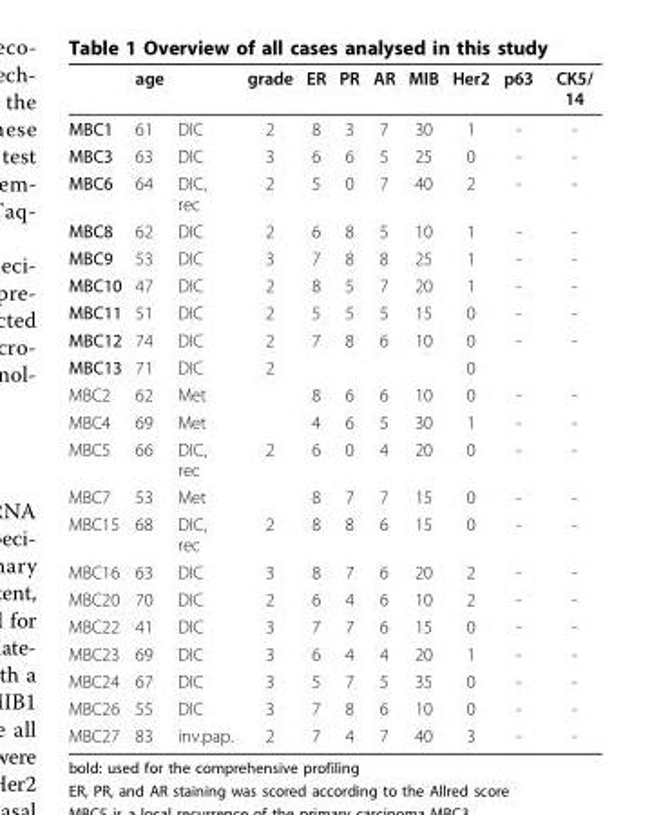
<table><thead><tr><td></td><td>age</td><td></td><td>grade</td><td>ER</td><td>PR</td><td>AR</td><td>MIB</td><td>Her2</td><td>p63</td><td>CK5/ 14</td></tr></thead><tbody><tr><td>MBC1</td><td>61</td><td>DIC</td><td>2</td><td>8</td><td>3</td><td>7</td><td>30</td><td>1</td><td>-</td><td>-</td></tr><tr><td>MBC3</td><td>63</td><td>DIC</td><td>3</td><td>6</td><td>6</td><td>5</td><td>25</td><td>0</td><td>-</td><td>-</td></tr><tr><td>MBC6</td><td>64</td><td>DIC, rec</td><td>2</td><td>5</td><td>0</td><td>7</td><td>40</td><td>2</td><td>-</td><td>-</td></tr><tr><td>MBC8</td><td>62</td><td>DIC</td><td>2</td><td>6</td><td>8</td><td>5</td><td>10</td><td>1</td><td>-</td><td>-</td></tr><tr><td>MBC9</td><td>53</td><td>DIC</td><td>3</td><td>7</td><td>8</td><td>8</td><td>25</td><td>1</td><td>-</td><td>-</td></tr><tr><td>MBC10</td><td>47</td><td>DIC</td><td>2</td><td>8</td><td>5</td><td>7</td><td>20</td><td>1</td><td>-</td><td>-</td></tr><tr><td>MBC11</td><td>51</td><td>DIC</td><td>2</td><td>5</td><td>5</td><td>5</td><td>15</td><td>0</td><td>-</td><td>-</td></tr><tr><td>MBC12</td><td>74</td><td>DIC</td><td>2</td><td>7</td><td>8</td><td>6</td><td>10</td><td>0</td><td>-</td><td>-</td></tr><tr><td>MBC13</td><td>71</td><td>DIC</td><td>2</td><td></td><td></td><td></td><td></td><td>0</td><td></td><td></td></tr><tr><td>MBC2</td><td>62</td><td>Met</td><td></td><td>8</td><td>6</td><td>6</td><td>10</td><td>0</td><td>-</td><td>-</td></tr><tr><td>MBC4</td><td>69</td><td>Met</td><td></td><td>4</td><td>6</td><td>5</td><td>30</td><td>1</td><td>-</td><td>-</td></tr><tr><td>MBC5</td><td>66</td><td>DIC, rec</td><td>2</td><td>6</td><td>0</td><td>4</td><td>20</td><td>0</td><td>-</td><td>-</td></tr><tr><td>MBC7</td><td>53</td><td>Met</td><td></td><td>8</td><td>7</td><td>7</td><td>15</td><td>0</td><td>-</td><td>-</td></tr><tr><td>MBC15</td><td>68</td><td>DIC, rec</td><td>2</td><td>8</td><td>8</td><td>6</td><td>15</td><td>0</td><td>-</td><td>-</td></tr><tr><td>MBC16</td><td>63</td><td>DIC</td><td>3</td><td>8</td><td>7</td><td>6</td><td>20</td><td>2</td><td>-</td><td>-</td></tr><tr><td>MBC20</td><td>70</td><td>DIC</td><td>2</td><td>6</td><td>4</td><td>6</td><td>10</td><td>2</td><td>-</td><td>-</td></tr><tr><td>MBC22</td><td>41</td><td>DIC</td><td>3</td><td>7</td><td>7</td><td>6</td><td>15</td><td>0</td><td>-</td><td>-</td></tr><tr><td>MBC23</td><td>69</td><td>DIC</td><td>3</td><td>6</td><td>4</td><td>4</td><td>20</td><td>1</td><td>-</td><td>-</td></tr><tr><td>MBC24</td><td>67</td><td>DIC</td><td>3</td><td>5</td><td>7</td><td>5</td><td>35</td><td>0</td><td>-</td><td>-</td></tr><tr><td>MBC26</td><td>55</td><td>DIC</td><td>3</td><td>7</td><td>8</td><td>6</td><td>10</td><td>0</td><td>-</td><td>-</td></tr><tr><td>MBC27</td><td>83</td><td>inv.pap.</td><td>2</td><td>7</td><td>4</td><td>7</td><td>40</td><td>3</td><td>-</td><td>-</td></tr></tbody></table>